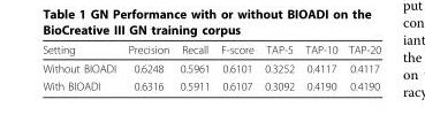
<table><thead><tr><td>Setting</td><td>Precision</td><td>Recall</td><td>F-score</td><td>TAP-5</td><td>TAP-10</td><td>TAP-20</td></tr></thead><tbody><tr><td>Without BIOADI</td><td>0.6248</td><td>0.5961</td><td>0.6101</td><td>0.3252</td><td>0.4117</td><td>0.4117</td></tr><tr><td>With BIOADI</td><td>0.6316</td><td>0.5911</td><td>0.6107</td><td>0.3092</td><td>0.4190</td><td>0.4190</td></tr></tbody></table>